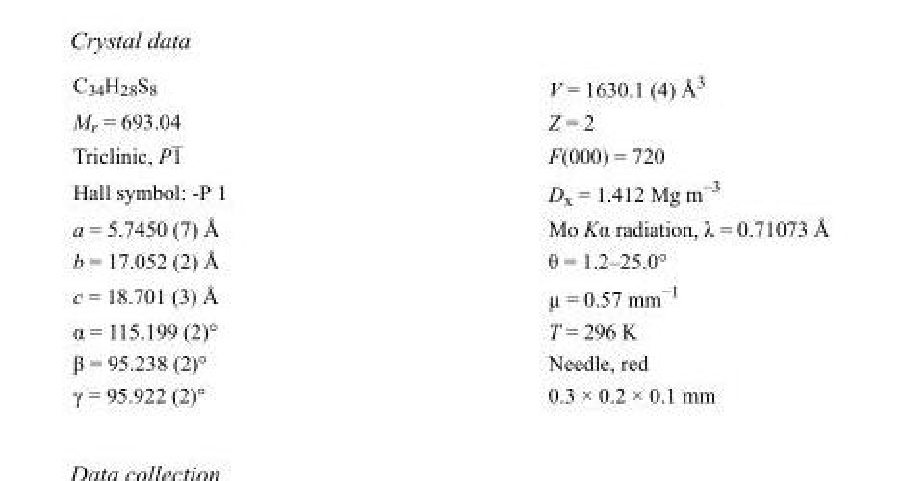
<table><tbody><tr><td>C<sub>34</sub>H<sub>28</sub>S<sub>8</sub></td><td>V = 1630.1 (4) Å<sup>3</sup></td></tr><tr><td>M<sub>r</sub> = 693.04</td><td>Z = 2</td></tr><tr><td>Triclinic, P1</td><td>F(000) = 720</td></tr><tr><td>Hall symbol: -P 1</td><td>D<sub>x</sub> = 1.412 Mg m<sup>−3</sup></td></tr><tr><td>a = 5.7450 (7) Å</td><td>Mo Kα radiation, λ = 0.71073 Å</td></tr><tr><td>b = 17.052 (2) Å</td><td>θ = 1.2–25.0°</td></tr><tr><td>c = 18.701 (3) Å</td><td>µ = 0.57 mm<sup>−1</sup></td></tr><tr><td>α = 115.199 (2)°</td><td>T = 296 K</td></tr><tr><td>β = 95.238 (2)°</td><td>Needle, red</td></tr><tr><td>γ = 95.922 (2)°</td><td>0.3 × 0.2 × 0.1 mm</td></tr></tbody></table>